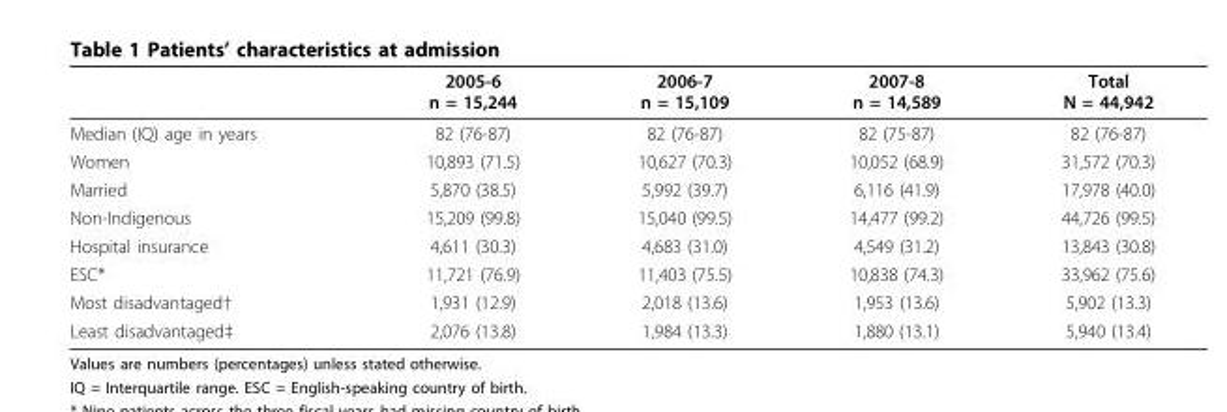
<table><thead><tr><td></td><td>2005-6 n = 15,244</td><td>2006-7 n = 15,109</td><td>2007-8 n = 14,589</td><td>Total N = 44,942</td></tr></thead><tbody><tr><td>Median (IQ) age in years</td><td>82 (76-87)</td><td>82 (76-87)</td><td>82 (75-87)</td><td>82 (76-87)</td></tr><tr><td>Women</td><td>10,893 (71.5)</td><td>10,627 (70.3)</td><td>10,052 (68.9)</td><td>31,572 (70.3)</td></tr><tr><td>Married</td><td>5,870 (38.5)</td><td>5,992 (39.7)</td><td>6,116 (41.9)</td><td>17,978 (40.0)</td></tr><tr><td>Non-Indigenous</td><td>15,209 (99.8)</td><td>15,040 (99.5)</td><td>14,477 (99.2)</td><td>44,726 (99.5)</td></tr><tr><td>Hospital insurance</td><td>4,611 (30.3)</td><td>4,683 (31.0)</td><td>4,549 (31.2)</td><td>13,843 (30.8)</td></tr><tr><td>ESC*</td><td>11,721 (76.9)</td><td>11,403 (75.5)</td><td>10,838 (74.3)</td><td>33,962 (75.6)</td></tr><tr><td>Most disadvantaged†</td><td>1,931 (12.9)</td><td>2,018 (13.6)</td><td>1,953 (13.6)</td><td>5,902 (13.3)</td></tr><tr><td>Least disadvantaged‡</td><td>2,076 (13.8)</td><td>1,984 (13.3)</td><td>1,880 (13.1)</td><td>5,940 (13.4)</td></tr></tbody></table>